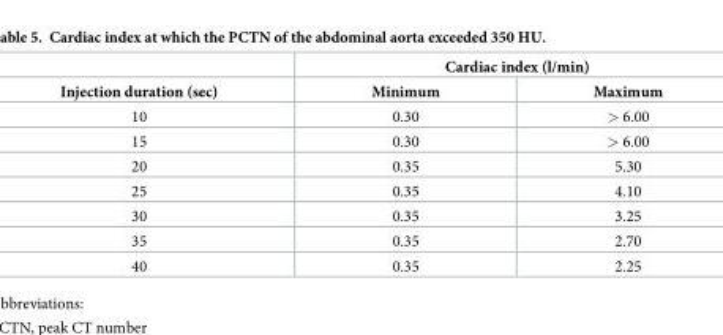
<table><thead><tr><td rowspan="2">Injection duration (sec)</td><td colspan="2">Cardiac index (l/min)</td></tr><tr><td>Minimum</td><td>Maximum</td></tr></thead><tbody><tr><td>10</td><td>0.30</td><td>&gt; 6.00</td></tr><tr><td>15</td><td>0.30</td><td>&gt; 6.00</td></tr><tr><td>20</td><td>0.35</td><td>5.30</td></tr><tr><td>25</td><td>0.35</td><td>4.10</td></tr><tr><td>30</td><td>0.35</td><td>3.25</td></tr><tr><td>35</td><td>0.35</td><td>2.70</td></tr><tr><td>40</td><td>0.35</td><td>2.25</td></tr></tbody></table>